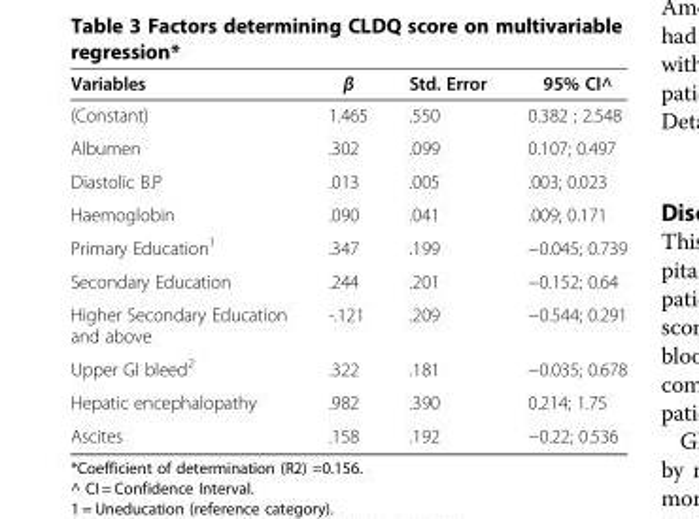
<table><thead><tr><td>Variables</td><td>β</td><td>Std. Error</td><td>95% CI^</td></tr></thead><tbody><tr><td>(Constant)</td><td>1.465</td><td>.550</td><td>0.382 ; 2.548</td></tr><tr><td>Albumen</td><td>.302</td><td>.099</td><td>0.107; 0.497</td></tr><tr><td>Diastolic B.P</td><td>.013</td><td>.005</td><td>.003; 0.023</td></tr><tr><td>Haemoglobin</td><td>.090</td><td>.041</td><td>.009; 0.171</td></tr><tr><td>Primary Education<sup>1</sup></td><td>.347</td><td>.199</td><td>−0.045; 0.739</td></tr><tr><td>Secondary Education</td><td>.244</td><td>.201</td><td>−0.152; 0.64</td></tr><tr><td>Higher Secondary Education and above</td><td>-.121</td><td>.209</td><td>−0.544; 0.291</td></tr><tr><td>Upper GI bleed<sup>2</sup></td><td>.322</td><td>.181</td><td>−0.035; 0.678</td></tr><tr><td>Hepatic encephalopathy</td><td>.982</td><td>.390</td><td>0.214; 1.75</td></tr><tr><td>Ascites</td><td>.158</td><td>.192</td><td>−0.22; 0.536</td></tr></tbody></table>